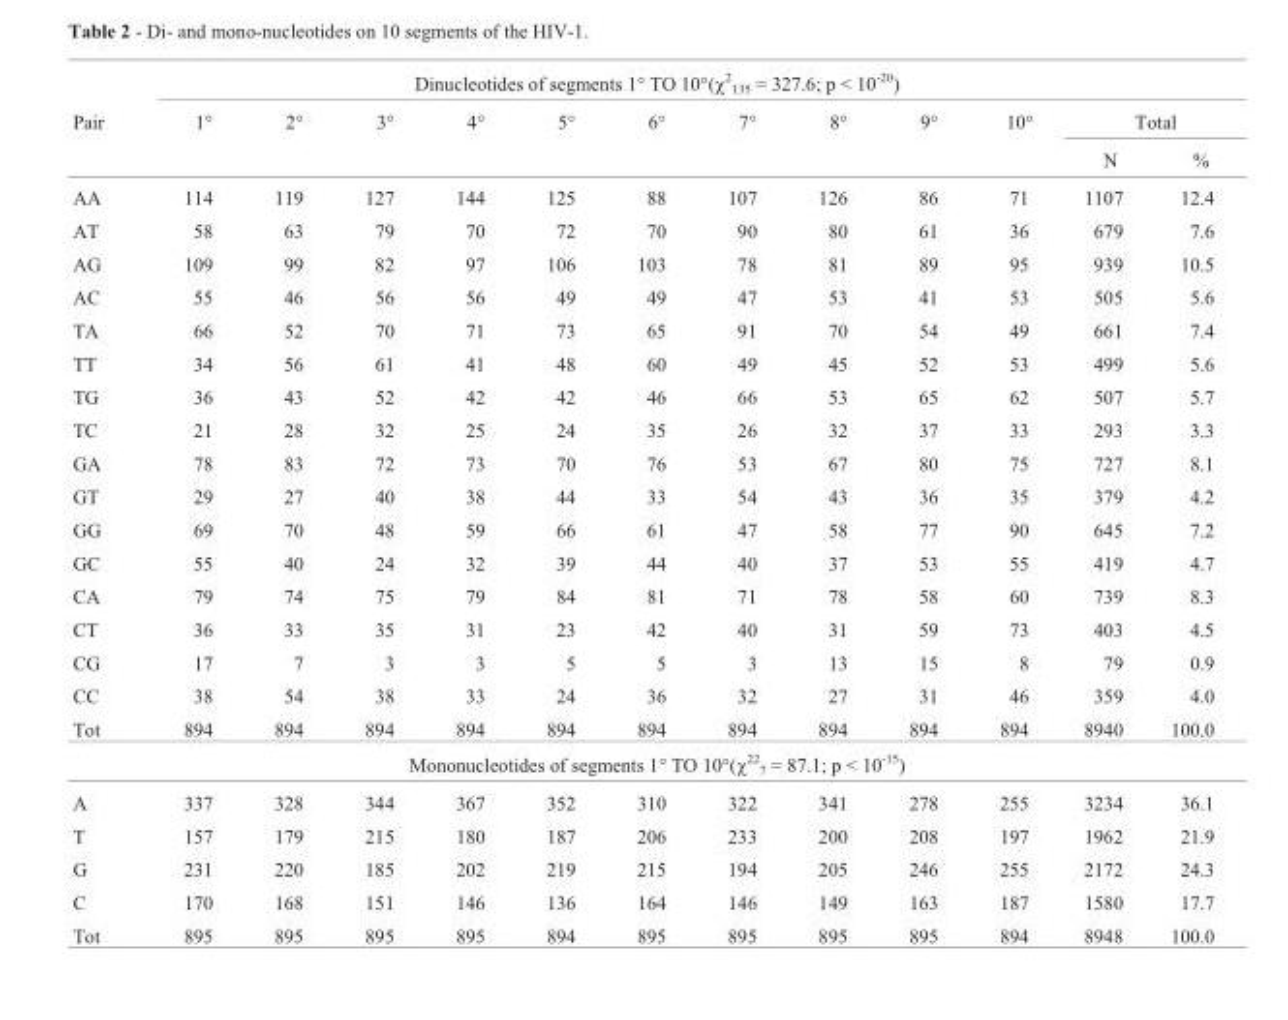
<table><thead><tr><td rowspan="3">Pair</td><td colspan="12">Dinucleotides of segments 1° TO 10°(χ<sup>2</sup> <sub>135</sub> = 327.6; p &lt; 10<sup>-20</sup>)</td></tr><tr><td rowspan="2">1°</td><td rowspan="2">2°</td><td rowspan="2">3°</td><td rowspan="2">4°</td><td rowspan="2">5°</td><td rowspan="2">6°</td><td rowspan="2">7°</td><td rowspan="2">8°</td><td rowspan="2">9°</td><td rowspan="2">10°</td><td colspan="2">Total</td></tr><tr><td>N</td><td>%</td></tr></thead><tbody><tr><td>AA</td><td>114</td><td>119</td><td>127</td><td>144</td><td>125</td><td>88</td><td>107</td><td>126</td><td>86</td><td>71</td><td>1107</td><td>12.4</td></tr><tr><td>AT</td><td>58</td><td>63</td><td>79</td><td>70</td><td>72</td><td>70</td><td>90</td><td>80</td><td>61</td><td>36</td><td>679</td><td>7.6</td></tr><tr><td>AG</td><td>109</td><td>99</td><td>82</td><td>97</td><td>106</td><td>103</td><td>78</td><td>81</td><td>89</td><td>95</td><td>939</td><td>10.5</td></tr><tr><td>AC</td><td>55</td><td>46</td><td>56</td><td>56</td><td>49</td><td>49</td><td>47</td><td>53</td><td>41</td><td>53</td><td>505</td><td>5.6</td></tr><tr><td>TA</td><td>66</td><td>52</td><td>70</td><td>71</td><td>73</td><td>65</td><td>91</td><td>70</td><td>54</td><td>49</td><td>661</td><td>7.4</td></tr><tr><td>TT</td><td>34</td><td>56</td><td>61</td><td>41</td><td>48</td><td>60</td><td>49</td><td>45</td><td>52</td><td>53</td><td>499</td><td>5.6</td></tr><tr><td>TG</td><td>36</td><td>43</td><td>52</td><td>42</td><td>42</td><td>46</td><td>66</td><td>53</td><td>65</td><td>62</td><td>507</td><td>5.7</td></tr><tr><td>TC</td><td>21</td><td>28</td><td>32</td><td>25</td><td>24</td><td>35</td><td>26</td><td>32</td><td>37</td><td>33</td><td>293</td><td>3.3</td></tr><tr><td>GA</td><td>78</td><td>83</td><td>72</td><td>73</td><td>70</td><td>76</td><td>53</td><td>67</td><td>80</td><td>75</td><td>727</td><td>8.1</td></tr><tr><td>GT</td><td>29</td><td>27</td><td>40</td><td>38</td><td>44</td><td>33</td><td>54</td><td>43</td><td>36</td><td>35</td><td>379</td><td>4.2</td></tr><tr><td>GG</td><td>69</td><td>70</td><td>48</td><td>59</td><td>66</td><td>61</td><td>47</td><td>58</td><td>77</td><td>90</td><td>645</td><td>7.2</td></tr><tr><td>GC</td><td>55</td><td>40</td><td>24</td><td>32</td><td>39</td><td>44</td><td>40</td><td>37</td><td>53</td><td>55</td><td>419</td><td>4.7</td></tr><tr><td>CA</td><td>79</td><td>74</td><td>75</td><td>79</td><td>84</td><td>81</td><td>71</td><td>78</td><td>58</td><td>60</td><td>739</td><td>8.3</td></tr><tr><td>CT</td><td>36</td><td>33</td><td>35</td><td>31</td><td>23</td><td>42</td><td>40</td><td>31</td><td>59</td><td>73</td><td>403</td><td>4.5</td></tr><tr><td>CG</td><td>17</td><td>7</td><td>3</td><td>3</td><td>5</td><td>5</td><td>3</td><td>13</td><td>15</td><td>8</td><td>79</td><td>0.9</td></tr><tr><td>CC</td><td>38</td><td>54</td><td>38</td><td>33</td><td>24</td><td>36</td><td>32</td><td>27</td><td>31</td><td>46</td><td>359</td><td>4.0</td></tr><tr><td>Tot</td><td>894</td><td>894</td><td>894</td><td>894</td><td>894</td><td>894</td><td>894</td><td>894</td><td>894</td><td>894</td><td>8940</td><td>100.0</td></tr><tr><td colspan="13">Mononucleotides of segments 1° TO 10°(χ<sup>22</sup> <sub>7</sub> = 87.1; p &lt; 10<sup>-15</sup>)</td></tr><tr><td>A</td><td>337</td><td>328</td><td>344</td><td>367</td><td>352</td><td>310</td><td>322</td><td>341</td><td>278</td><td>255</td><td>3234</td><td>36.1</td></tr><tr><td>T</td><td>157</td><td>179</td><td>215</td><td>180</td><td>187</td><td>206</td><td>233</td><td>200</td><td>208</td><td>197</td><td>1962</td><td>21.9</td></tr><tr><td>G</td><td>231</td><td>220</td><td>185</td><td>202</td><td>219</td><td>215</td><td>194</td><td>205</td><td>246</td><td>255</td><td>2172</td><td>24.3</td></tr><tr><td>C</td><td>170</td><td>168</td><td>151</td><td>146</td><td>136</td><td>164</td><td>146</td><td>149</td><td>163</td><td>187</td><td>1580</td><td>17.7</td></tr><tr><td>Tot</td><td>895</td><td>895</td><td>895</td><td>895</td><td>894</td><td>895</td><td>895</td><td>895</td><td>895</td><td>894</td><td>8948</td><td>100.0</td></tr></tbody></table>